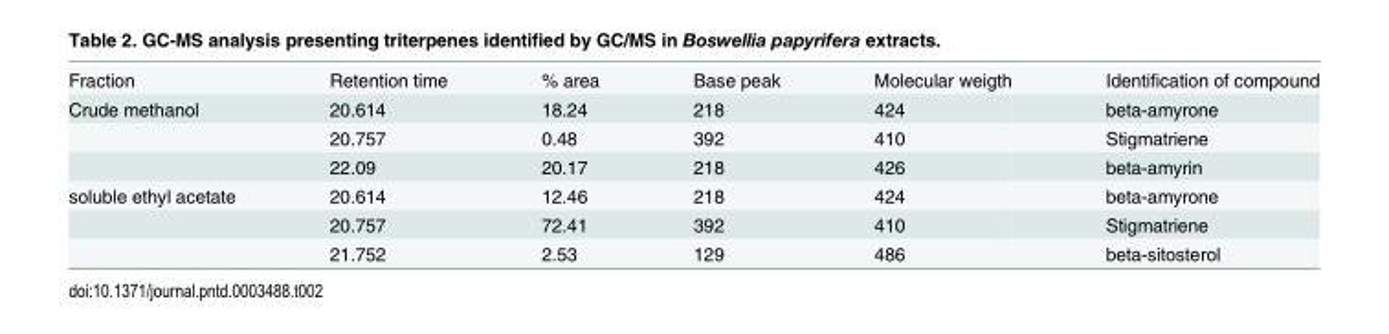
<table><tbody><tr><td>Fraction</td><td>Retention time</td><td>% area</td><td>Base peak</td><td>Molecular weigth</td><td>Identification of compound</td></tr><tr><td rowspan="3">Crude methanol</td><td>20.614</td><td>18.24</td><td>218</td><td>424</td><td>beta-amyrone</td></tr><tr><td>20.757</td><td>0.48</td><td>392</td><td>410</td><td>Stigmatriene</td></tr><tr><td>22.09</td><td>20.17</td><td>218</td><td>426</td><td>beta-amyrin</td></tr><tr><td rowspan="3">soluble ethyl acetate</td><td>20.614</td><td>12.46</td><td>218</td><td>424</td><td>beta-amyrone</td></tr><tr><td>20.757</td><td>72.41</td><td>392</td><td>410</td><td>Stigmatriene</td></tr><tr><td>21.752</td><td>2.53</td><td>129</td><td>486</td><td>beta-sitosterol</td></tr></tbody></table>